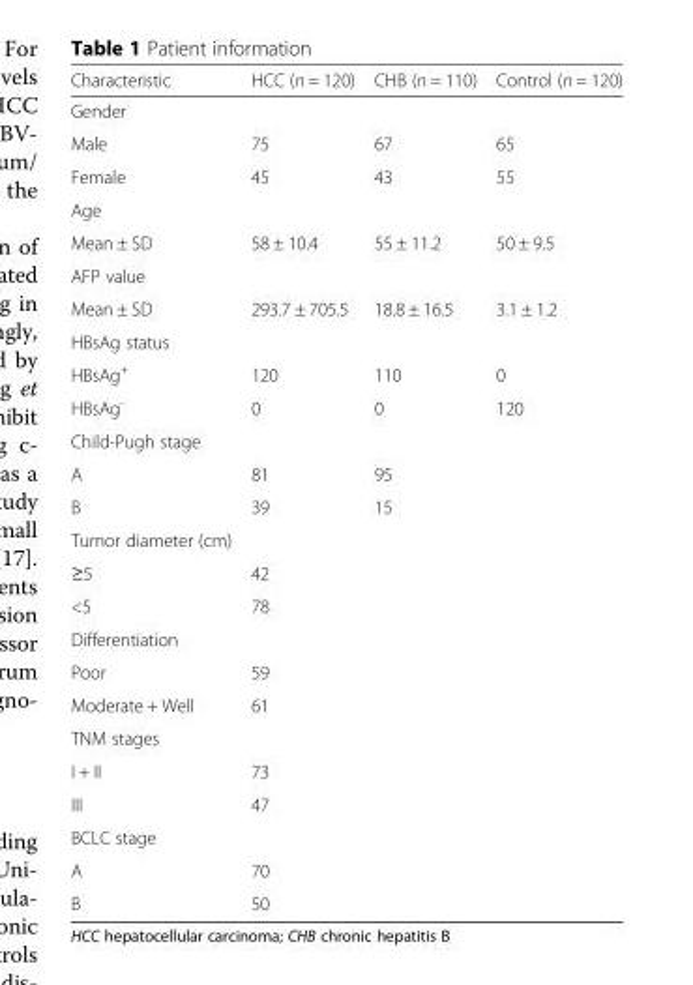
<table><thead><tr><td>Characteristic</td><td>HCC (n = 120)</td><td>CHB (n = 110)</td><td>Control (n = 120)</td></tr></thead><tbody><tr><td colspan="4">Gender</td></tr><tr><td>Male</td><td>75</td><td>67</td><td>65</td></tr><tr><td>Female</td><td>45</td><td>43</td><td>55</td></tr><tr><td colspan="4">Age</td></tr><tr><td>Mean ± SD</td><td>58 ± 10.4</td><td>55 ± 11.2</td><td>50 ± 9.5</td></tr><tr><td colspan="4">AFP value</td></tr><tr><td>Mean ± SD</td><td>293.7 ± 705.5</td><td>18.8 ± 16.5</td><td>3.1 ± 1.2</td></tr><tr><td colspan="4">HBsAg status</td></tr><tr><td>HBsAg<sup>+</sup></td><td>120</td><td>110</td><td>0</td></tr><tr><td>HBsAg<sup>-</sup></td><td>0</td><td>0</td><td>120</td></tr><tr><td colspan="4">Child-Pugh stage</td></tr><tr><td>A</td><td>81</td><td>95</td><td></td></tr><tr><td>B</td><td>39</td><td>15</td><td></td></tr><tr><td colspan="4">Tumor diameter (cm)</td></tr><tr><td>≥5</td><td>42</td><td></td><td></td></tr><tr><td>&lt;5</td><td>78</td><td></td><td></td></tr><tr><td colspan="4">Differentiation</td></tr><tr><td>Poor</td><td>59</td><td></td><td></td></tr><tr><td>Moderate + Well</td><td>61</td><td></td><td></td></tr><tr><td colspan="4">TNM stages</td></tr><tr><td>I + II</td><td>73</td><td></td><td></td></tr><tr><td>III</td><td>47</td><td></td><td></td></tr><tr><td colspan="4">BCLC stage</td></tr><tr><td>A</td><td>70</td><td></td><td></td></tr><tr><td>B</td><td>50</td><td></td><td></td></tr></tbody></table>